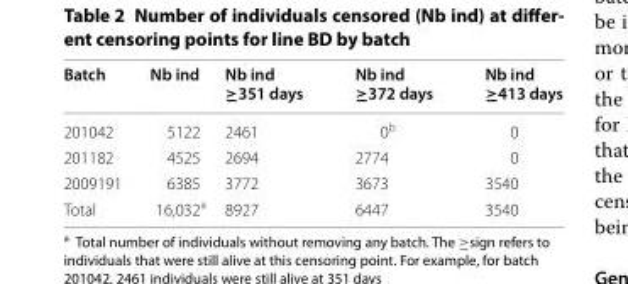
<table><thead><tr><td>Batch</td><td>Nb ind</td><td>Nb ind ≥351 days</td><td>Nb ind ≥372 days</td><td>Nb ind ≥413 days</td></tr></thead><tbody><tr><td>201042</td><td>5122</td><td>2461</td><td>0<sup>b</sup></td><td>0</td></tr><tr><td>201182</td><td>4525</td><td>2694</td><td>2774</td><td>0</td></tr><tr><td>2009191</td><td>6385</td><td>3772</td><td>3673</td><td>3540</td></tr><tr><td>Total</td><td>16,032<sup>a</sup></td><td>8927</td><td>6447</td><td>3540</td></tr></tbody></table>